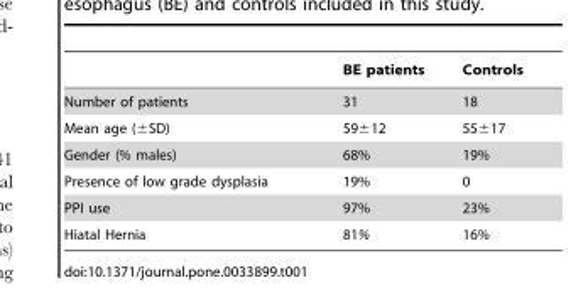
<table><thead><tr><td></td><td>BE patients</td><td>Controls</td></tr></thead><tbody><tr><td>Number of patients</td><td>31</td><td>18</td></tr><tr><td>Mean age (±SD)</td><td>59±12</td><td>55±17</td></tr><tr><td>Gender (% males)</td><td>68%</td><td>19%</td></tr><tr><td>Presence of low grade dysplasia</td><td>19%</td><td>0</td></tr><tr><td>PPI use</td><td>97%</td><td>23%</td></tr><tr><td>Hiatal Hernia</td><td>81%</td><td>16%</td></tr></tbody></table>